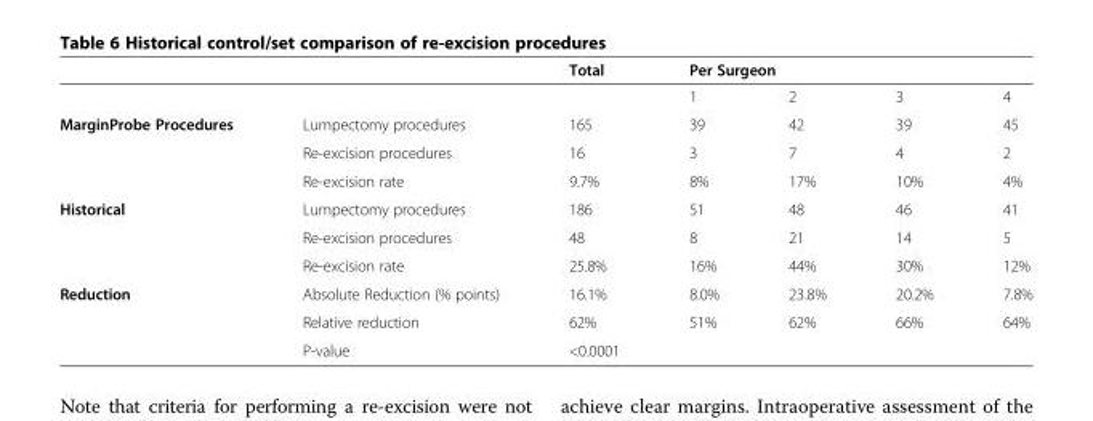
<table><thead><tr><td></td><td></td><td rowspan="2">Total</td><td colspan="4">Per Surgeon</td></tr><tr><td colspan="2"></td><td>1</td><td>2</td><td>3</td><td>4</td></tr></thead><tbody><tr><td rowspan="3">MarginProbe Procedures</td><td>Lumpectomy procedures</td><td>165</td><td>39</td><td>42</td><td>39</td><td>45</td></tr><tr><td>Re-excision procedures</td><td>16</td><td>3</td><td>7</td><td>4</td><td>2</td></tr><tr><td>Re-excision rate</td><td>9.7%</td><td>8%</td><td>17%</td><td>10%</td><td>4%</td></tr><tr><td rowspan="3">Historical</td><td>Lumpectomy procedures</td><td>186</td><td>51</td><td>48</td><td>46</td><td>41</td></tr><tr><td>Re-excision procedures</td><td>48</td><td>8</td><td>21</td><td>14</td><td>5</td></tr><tr><td>Re-excision rate</td><td>25.8%</td><td>16%</td><td>44%</td><td>30%</td><td>12%</td></tr><tr><td rowspan="3">Reduction</td><td>Absolute Reduction (% points)</td><td>16.1%</td><td>8.0%</td><td>23.8%</td><td>20.2%</td><td>7.8%</td></tr><tr><td>Relative reduction</td><td>62%</td><td>51%</td><td>62%</td><td>66%</td><td>64%</td></tr><tr><td>P-value</td><td>&lt;0.0001</td><td></td><td></td><td></td><td></td></tr></tbody></table>